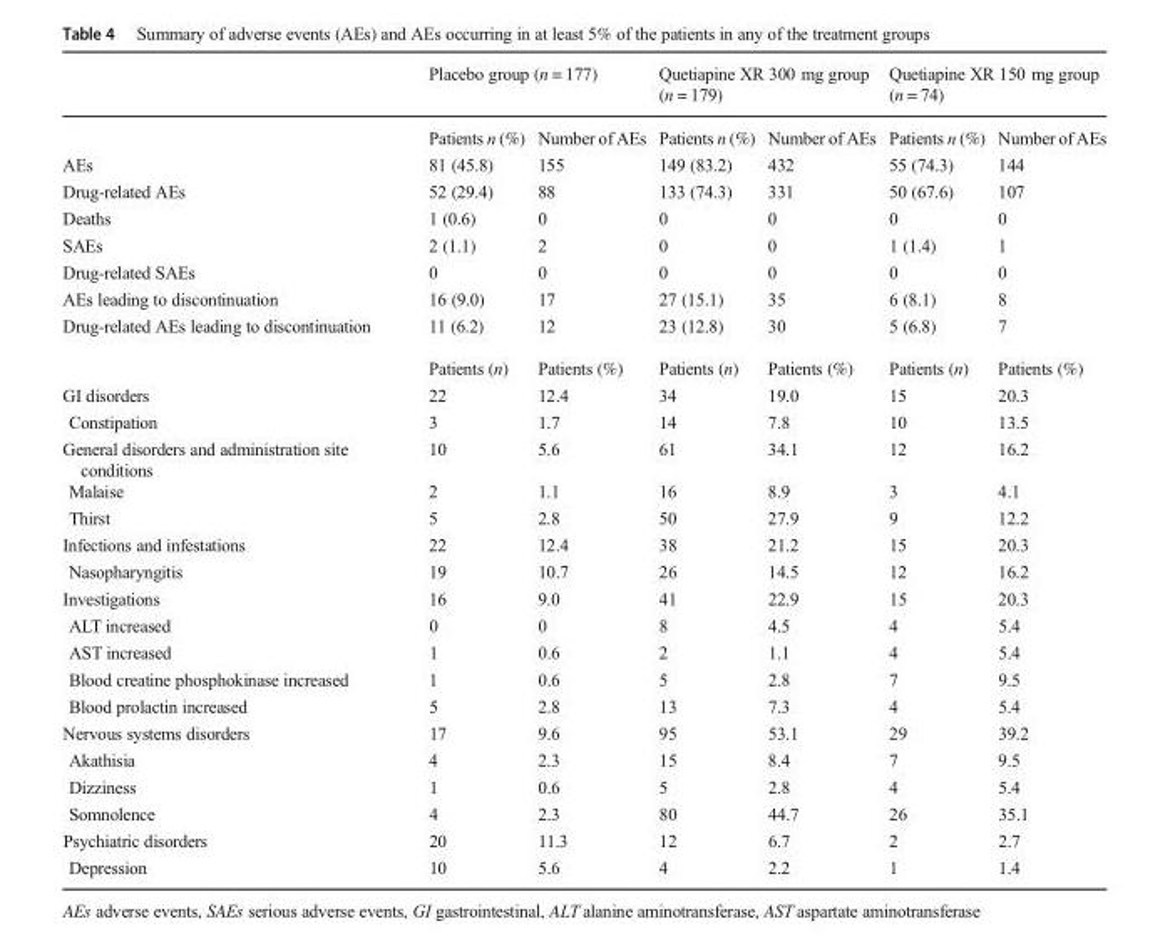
<table><thead><tr><td rowspan="2"></td><td colspan="2">Placebo group (n = 177)</td><td colspan="2">Quetiapine XR 300 mg group (n = 179)</td><td colspan="2">Quetiapine XR 150 mg group (n = 74)</td></tr><tr><td>Patients n (%)</td><td>Number of AEs</td><td>Patients n (%)</td><td>Number of AEs</td><td>Patients n (%)</td><td>Number of AEs</td></tr></thead><tbody><tr><td>AEs</td><td>81 (45.8)</td><td>155</td><td>149 (83.2)</td><td>432</td><td>55 (74.3)</td><td>144</td></tr><tr><td>Drug-related AEs</td><td>52 (29.4)</td><td>88</td><td>133 (74.3)</td><td>331</td><td>50 (67.6)</td><td>107</td></tr><tr><td>Deaths</td><td>1 (0.6)</td><td>0</td><td>0</td><td>0</td><td>0</td><td>0</td></tr><tr><td>SAEs</td><td>2 (1.1)</td><td>2</td><td>0</td><td>0</td><td>1 (1.4)</td><td>1</td></tr><tr><td>Drug-related SAEs</td><td>0</td><td>0</td><td>0</td><td>0</td><td>0</td><td>0</td></tr><tr><td>AEs leading to discontinuation</td><td>16 (9.0)</td><td>17</td><td>27 (15.1)</td><td>35</td><td>6 (8.1)</td><td>8</td></tr><tr><td rowspan="2">Drug-related AEs leading to discontinuation</td><td>11 (6.2)</td><td>12</td><td>23 (12.8)</td><td>30</td><td>5 (6.8)</td><td>7</td></tr><tr><td>Patients (n)</td><td>Patients (%)</td><td>Patients (n)</td><td>Patients (%)</td><td>Patients (n)</td><td>Patients (%)</td></tr><tr><td>GI disorders</td><td>22</td><td>12.4</td><td>34</td><td>19.0</td><td>15</td><td>20.3</td></tr><tr><td>Constipation</td><td>3</td><td>1.7</td><td>14</td><td>7.8</td><td>10</td><td>13.5</td></tr><tr><td>General disorders and administration site conditions</td><td>10</td><td>5.6</td><td>61</td><td>34.1</td><td>12</td><td>16.2</td></tr><tr><td>Malaise</td><td>2</td><td>1.1</td><td>16</td><td>8.9</td><td>3</td><td>4.1</td></tr><tr><td>Thirst</td><td>5</td><td>2.8</td><td>50</td><td>27.9</td><td>9</td><td>12.2</td></tr><tr><td>Infections and infestations</td><td>22</td><td>12.4</td><td>38</td><td>21.2</td><td>15</td><td>20.3</td></tr><tr><td>Nasopharyngitis</td><td>19</td><td>10.7</td><td>26</td><td>14.5</td><td>12</td><td>16.2</td></tr><tr><td>Investigations</td><td>16</td><td>9.0</td><td>41</td><td>22.9</td><td>15</td><td>20.3</td></tr><tr><td>ALT increased</td><td>0</td><td>0</td><td>8</td><td>4.5</td><td>4</td><td>5.4</td></tr><tr><td>AST increased</td><td>1</td><td>0.6</td><td>2</td><td>1.1</td><td>4</td><td>5.4</td></tr><tr><td>Blood creatine phosphokinase increased</td><td>1</td><td>0.6</td><td>5</td><td>2.8</td><td>7</td><td>9.5</td></tr><tr><td>Blood prolactin increased</td><td>5</td><td>2.8</td><td>13</td><td>7.3</td><td>4</td><td>5.4</td></tr><tr><td>Nervous systems disorders</td><td>17</td><td>9.6</td><td>95</td><td>53.1</td><td>29</td><td>39.2</td></tr><tr><td>Akathisia</td><td>4</td><td>2.3</td><td>15</td><td>8.4</td><td>7</td><td>9.5</td></tr><tr><td>Dizziness</td><td>1</td><td>0.6</td><td>5</td><td>2.8</td><td>4</td><td>5.4</td></tr><tr><td>Somnolence</td><td>4</td><td>2.3</td><td>80</td><td>44.7</td><td>26</td><td>35.1</td></tr><tr><td>Psychiatric disorders</td><td>20</td><td>11.3</td><td>12</td><td>6.7</td><td>2</td><td>2.7</td></tr><tr><td>Depression</td><td>10</td><td>5.6</td><td>4</td><td>2.2</td><td>1</td><td>1.4</td></tr></tbody></table>